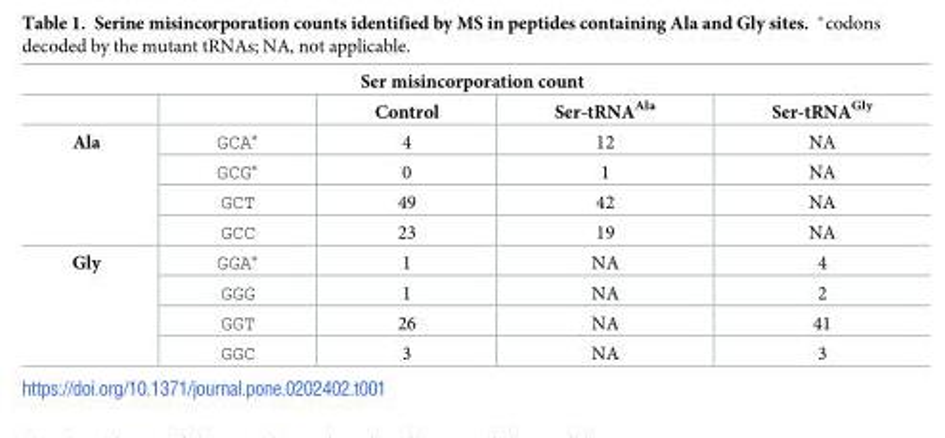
<table><thead><tr><td colspan="5">Ser misincorporation count</td></tr><tr><td></td><td></td><td>Control</td><td>Ser-tRNA<sup>Ala</sup></td><td>Ser-tRNA<sup>Gly</sup></td></tr></thead><tbody><tr><td rowspan="4">Ala</td><td>GCA*</td><td>4</td><td>12</td><td>NA</td></tr><tr><td>GCG*</td><td>0</td><td>1</td><td>NA</td></tr><tr><td>GCT</td><td>49</td><td>42</td><td>NA</td></tr><tr><td>GCC</td><td>23</td><td>19</td><td>NA</td></tr><tr><td rowspan="4">Gly</td><td>GGA*</td><td>1</td><td>NA</td><td>4</td></tr><tr><td>GGG</td><td>1</td><td>NA</td><td>2</td></tr><tr><td>GGT</td><td>26</td><td>NA</td><td>41</td></tr><tr><td>GGC</td><td>3</td><td>NA</td><td>3</td></tr></tbody></table>